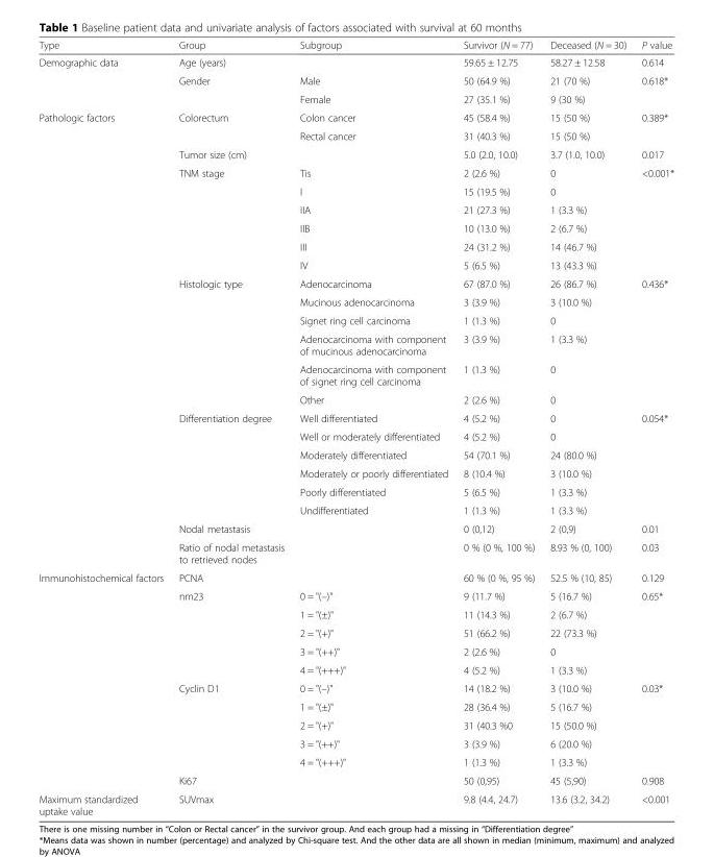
<table><thead><tr><td>Type</td><td>Group</td><td>Subgroup</td><td>Survivor (N = 77)</td><td>Deceased (N = 30)</td><td>P value</td></tr></thead><tbody><tr><td rowspan="3">Demographic data</td><td>Age (years)</td><td></td><td>59.65 ± 12.75</td><td>58.27 ± 12.58</td><td>0.614</td></tr><tr><td rowspan="2">Gender</td><td>Male</td><td>50 (64.9 %)</td><td>21 (70 %)</td><td rowspan="2">0.618*</td></tr><tr><td>Female</td><td>27 (35.1 %)</td><td>9 (30 %)</td></tr><tr><td rowspan="23">Pathologic factors</td><td rowspan="2">Colorectum</td><td>Colon cancer</td><td>45 (58.4 %)</td><td>15 (50 %)</td><td rowspan="2">0.389*</td></tr><tr><td>Rectal cancer</td><td>31 (40.3 %)</td><td>15 (50 %)</td></tr><tr><td>Tumor size (cm)</td><td></td><td>5.0 (2.0, 10.0)</td><td>3.7 (1.0, 10.0)</td><td>0.017</td></tr><tr><td rowspan="6">TNM stage</td><td>Tis</td><td>2 (2.6 %)</td><td>0</td><td rowspan="6">&lt;0.001*</td></tr><tr><td>I</td><td>15 (19.5 %)</td><td>0</td></tr><tr><td>IIA</td><td>21 (27.3 %)</td><td>1 (3.3 %)</td></tr><tr><td>IIB</td><td>10 (13.0 %)</td><td>2 (6.7 %)</td></tr><tr><td>III</td><td>24 (31.2 %)</td><td>14 (46.7 %)</td></tr><tr><td>IV</td><td>5 (6.5 %)</td><td>13 (43.3 %)</td></tr><tr><td rowspan="6">Histologic type</td><td>Adenocarcinoma</td><td>67 (87.0 %)</td><td>26 (86.7 %)</td><td rowspan="6">0.436*</td></tr><tr><td>Mucinous adenocarcinoma</td><td>3 (3.9 %)</td><td>3 (10.0 %)</td></tr><tr><td>Signet ring cell carcinoma</td><td>1 (1.3 %)</td><td>0</td></tr><tr><td>Adenocarcinoma with component of mucinous adenocarcinoma</td><td>3 (3.9 %)</td><td>1 (3.3 %)</td></tr><tr><td>Adenocarcinoma with component of signet ring cell carcinoma</td><td>1 (1.3 %)</td><td>0</td></tr><tr><td>Other</td><td>2 (2.6 %)</td><td>0</td></tr><tr><td rowspan="6">Differentiation degree</td><td>Well differentiated</td><td>4 (5.2 %)</td><td>0</td><td rowspan="6">0.054*</td></tr><tr><td>Well or moderately differentiated</td><td>4 (5.2 %)</td><td>0</td></tr><tr><td>Moderately differentiated</td><td>54 (70.1 %)</td><td>24 (80.0 %)</td></tr><tr><td>Moderately or poorly differentiated</td><td>8 (10.4 %)</td><td>3 (10.0 %)</td></tr><tr><td>Poorly differentiated</td><td>5 (6.5 %)</td><td>1 (3.3 %)</td></tr><tr><td>Undifferentiated</td><td>1 (1.3 %)</td><td>1 (3.3 %)</td></tr><tr><td>Nodal metastasis</td><td></td><td>0 (0,12)</td><td>2 (0,9)</td><td>0.01</td></tr><tr><td>Ratio of nodal metastasis to retrieved nodes</td><td></td><td>0 % (0 %, 100 %)</td><td>8.93 % (0, 100)</td><td>0.03</td></tr><tr><td rowspan="12">Immunohistochemical factors</td><td>PCNA</td><td></td><td>60 % (0 %, 95 %)</td><td>52.5 % (10, 85)</td><td>0.129</td></tr><tr><td rowspan="5">nm23</td><td>0 = &quot;(–)&quot;</td><td>9 (11.7 %)</td><td>5 (16.7 %)</td><td rowspan="5">0.65*</td></tr><tr><td>1 = &quot;(±)&quot;</td><td>11 (14.3 %)</td><td>2 (6.7 %)</td></tr><tr><td>2 = &quot;(+)&quot;</td><td>51 (66.2 %)</td><td>22 (73.3 %)</td></tr><tr><td>3 = &quot;(++)&quot;</td><td>2 (2.6 %)</td><td>0</td></tr><tr><td>4 = &quot;(+++)&quot;</td><td>4 (5.2 %)</td><td>1 (3.3 %)</td></tr><tr><td rowspan="4">Cyclin D1</td><td>0 = &quot;(–)&quot;</td><td>14 (18.2 %)</td><td>3 (10.0 %)</td><td rowspan="4">0.03*</td></tr><tr><td>1 = &quot;(±)&quot;</td><td>28 (36.4 %)</td><td>5 (16.7 %)</td></tr><tr><td>2 = &quot;(+)&quot;</td><td>31 (40.3 %0</td><td>15 (50.0 %)</td></tr><tr><td>3 = &quot;(++)&quot;</td><td>3 (3.9 %)</td><td>6 (20.0 %)</td></tr><tr><td></td><td>4 = &quot;(+++)&quot;</td><td>1 (1.3 %)</td><td>1 (3.3 %)</td><td></td></tr><tr><td>Ki67</td><td></td><td>50 (0,95)</td><td>45 (5,90)</td><td>0.908</td></tr><tr><td>Maximum standardized uptake value</td><td>SUVmax</td><td></td><td>9.8 (4.4, 24.7)</td><td>13.6 (3.2, 34.2)</td><td>&lt;0.001</td></tr></tbody></table>